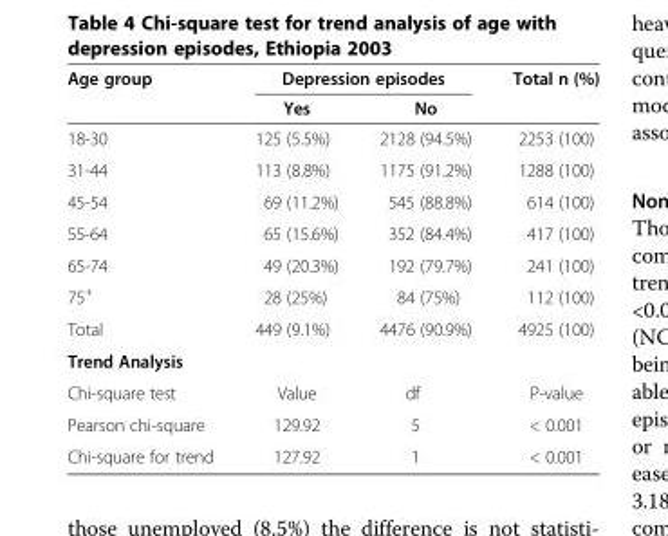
<table><thead><tr><td rowspan="2">Age group</td><td colspan="2">Depression episodes</td><td rowspan="2">Total n (%)</td></tr><tr><td>Yes</td><td>No</td></tr></thead><tbody><tr><td>18-30</td><td>125 (5.5%)</td><td>2128 (94.5%)</td><td>2253 (100)</td></tr><tr><td>31-44</td><td>113 (8.8%)</td><td>1175 (91.2%)</td><td>1288 (100)</td></tr><tr><td>45-54</td><td>69 (11.2%)</td><td>545 (88.8%)</td><td>614 (100)</td></tr><tr><td>55-64</td><td>65 (15.6%)</td><td>352 (84.4%)</td><td>417 (100)</td></tr><tr><td>65-74</td><td>49 (20.3%)</td><td>192 (79.7%)</td><td>241 (100)</td></tr><tr><td>75<sup>+</sup></td><td>28 (25%)</td><td>84 (75%)</td><td>112 (100)</td></tr><tr><td>Total</td><td>449 (9.1%)</td><td>4476 (90.9%)</td><td>4925 (100)</td></tr><tr><td colspan="4">Trend Analysis</td></tr><tr><td>Chi-square test</td><td>Value</td><td>df</td><td>P-value</td></tr><tr><td>Pearson chi-square</td><td>129.92</td><td>5</td><td>&lt; 0.001</td></tr><tr><td>Chi-square for trend</td><td>127.92</td><td>1</td><td>&lt; 0.001</td></tr></tbody></table>